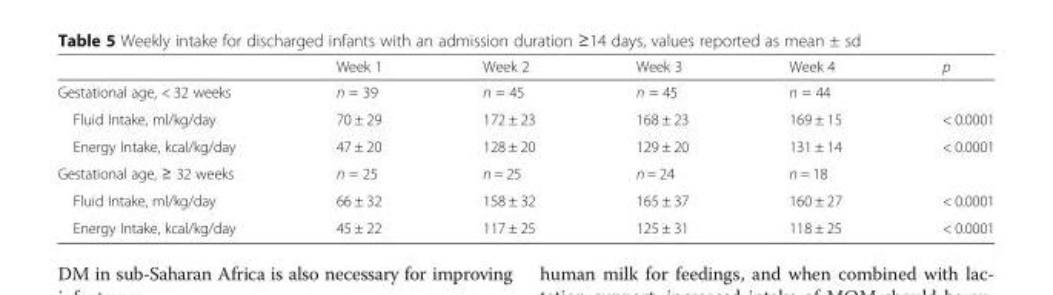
<table><thead><tr><td></td><td>Week 1</td><td>Week 2</td><td>Week 3</td><td>Week 4</td><td>p</td></tr></thead><tbody><tr><td>Gestational age, &lt; 32 weeks</td><td>n = 39</td><td>n = 45</td><td>n = 45</td><td>n = 44</td><td></td></tr><tr><td>Fluid Intake, ml/kg/day</td><td>70 ± 29</td><td>172 ± 23</td><td>168 ± 23</td><td>169 ± 15</td><td>&lt; 0.0001</td></tr><tr><td>Energy Intake, kcal/kg/day</td><td>47 ± 20</td><td>128 ± 20</td><td>129 ± 20</td><td>131 ± 14</td><td>&lt; 0.0001</td></tr><tr><td>Gestational age, ≥ 32 weeks</td><td>n = 25</td><td>n = 25</td><td>n = 24</td><td>n = 18</td><td></td></tr><tr><td>Fluid Intake, ml/kg/day</td><td>66 ± 32</td><td>158 ± 32</td><td>165 ± 37</td><td>160 ± 27</td><td>&lt; 0.0001</td></tr><tr><td>Energy Intake, kcal/kg/day</td><td>45 ± 22</td><td>117 ± 25</td><td>125 ± 31</td><td>118 ± 25</td><td>&lt; 0.0001</td></tr></tbody></table>